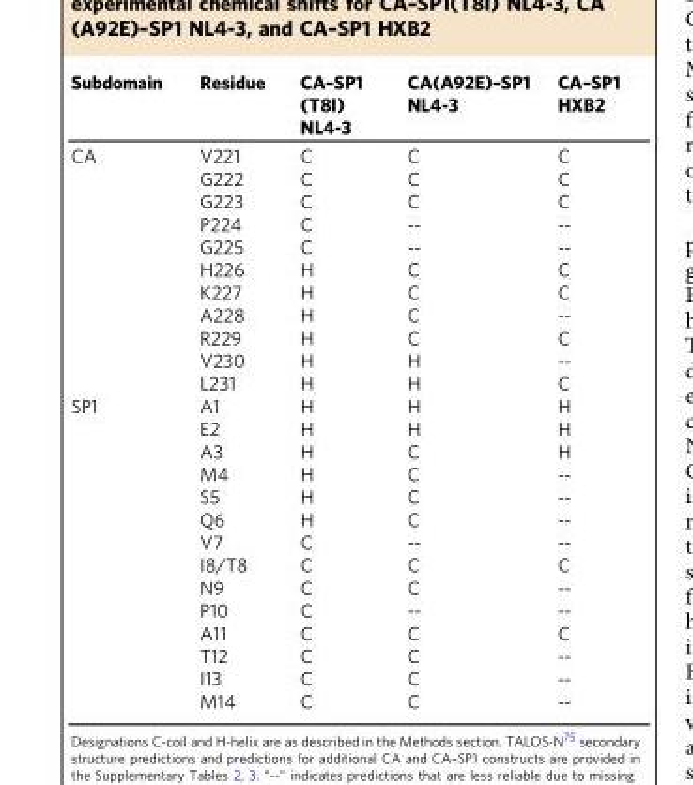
<table><thead><tr><td>Subdomain</td><td>Residue</td><td>CA–SP1 (T8I) NL4-3</td><td>CA(A92E)–SP1 NL4-3</td><td>CA–SP1 HXB2</td></tr></thead><tbody><tr><td rowspan="11">CA</td><td>V221</td><td>C</td><td>C</td><td>C</td></tr><tr><td>G222</td><td>C</td><td>C</td><td>C</td></tr><tr><td>G223</td><td>C</td><td>C</td><td>C</td></tr><tr><td>P224</td><td>C</td><td>--</td><td>--</td></tr><tr><td>G225</td><td>C</td><td>--</td><td>--</td></tr><tr><td>H226</td><td>H</td><td>C</td><td>C</td></tr><tr><td>K227</td><td>H</td><td>C</td><td>C</td></tr><tr><td>A228</td><td>H</td><td>C</td><td>--</td></tr><tr><td>R229</td><td>H</td><td>C</td><td>C</td></tr><tr><td>V230</td><td>H</td><td>H</td><td>--</td></tr><tr><td>L231</td><td>H</td><td>H</td><td>C</td></tr><tr><td rowspan="14">SP1</td><td>A1</td><td>H</td><td>H</td><td>H</td></tr><tr><td>E2</td><td>H</td><td>H</td><td>H</td></tr><tr><td>A3</td><td>H</td><td>C</td><td>H</td></tr><tr><td>M4</td><td>H</td><td>C</td><td>--</td></tr><tr><td>S5</td><td>H</td><td>C</td><td>--</td></tr><tr><td>Q6</td><td>H</td><td>C</td><td>--</td></tr><tr><td>V7</td><td>C</td><td>--</td><td>--</td></tr><tr><td>I8/T8</td><td>C</td><td>C</td><td>C</td></tr><tr><td>N9</td><td>C</td><td>C</td><td>--</td></tr><tr><td>P10</td><td>C</td><td>--</td><td>--</td></tr><tr><td>A11</td><td>C</td><td>C</td><td>C</td></tr><tr><td>T12</td><td>C</td><td>C</td><td>--</td></tr><tr><td>I13</td><td>C</td><td>C</td><td>--</td></tr><tr><td>M14</td><td>C</td><td>C</td><td>--</td></tr></tbody></table>